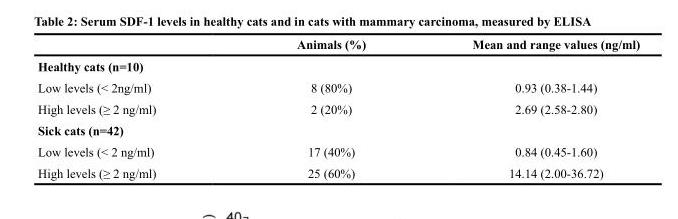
<table><thead><tr><td></td><td>Animals (%)</td><td>Mean and range values (ng/ml)</td></tr></thead><tbody><tr><td colspan="3">Healthy cats (n=10)</td></tr><tr><td>Low levels (&lt; 2ng/ml)</td><td>8 (80%)</td><td>0.93 (0.38-1.44)</td></tr><tr><td>High levels (≥ 2 ng/ml)</td><td>2 (20%)</td><td>2.69 (2.58-2.80)</td></tr><tr><td colspan="3">Sick cats (n=42)</td></tr><tr><td>Low levels (&lt; 2 ng/ml)</td><td>17 (40%)</td><td>0.84 (0.45-1.60)</td></tr><tr><td>High levels (≥ 2 ng/ml)</td><td>25 (60%)</td><td>14.14 (2.00-36.72)</td></tr></tbody></table>